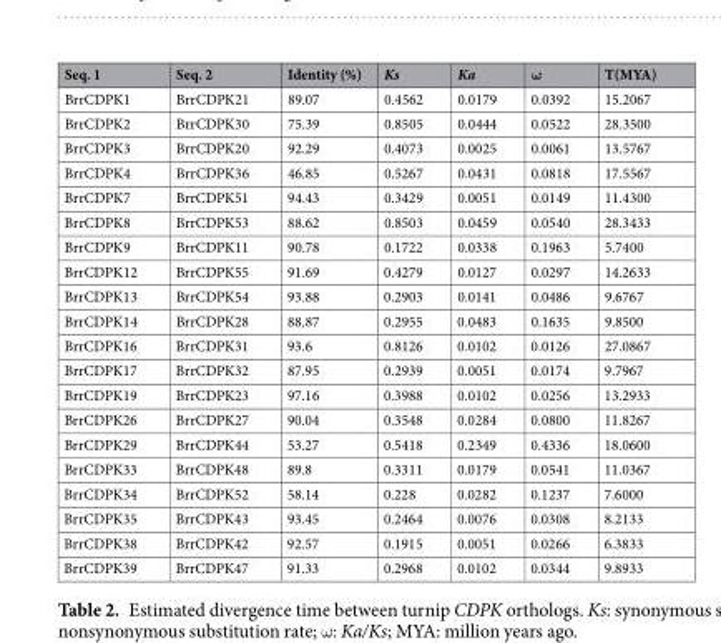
<table><thead><tr><td>Seq. 1</td><td>Seq. 2</td><td>Identity (%)</td><td>Ks</td><td>Ka</td><td>ω</td><td>T(MYA)</td></tr></thead><tbody><tr><td>BrrCDPK1</td><td>BrrCDPK21</td><td>89.07</td><td>0.4562</td><td>0.0179</td><td>0.0392</td><td>15.2067</td></tr><tr><td>BrrCDPK2</td><td>BrrCDPK30</td><td>75.39</td><td>0.8505</td><td>0.0444</td><td>0.0522</td><td>28.3500</td></tr><tr><td>BrrCDPK3</td><td>BrrCDPK20</td><td>92.29</td><td>0.4073</td><td>0.0025</td><td>0.0061</td><td>13.5767</td></tr><tr><td>BrrCDPK4</td><td>BrrCDPK36</td><td>46.85</td><td>0.5267</td><td>0.0431</td><td>0.0818</td><td>17.5567</td></tr><tr><td>BrrCDPK7</td><td>BrrCDPK51</td><td>94.43</td><td>0.3429</td><td>0.0051</td><td>0.0149</td><td>11.4300</td></tr><tr><td>BrrCDPK8</td><td>BrrCDPK53</td><td>88.62</td><td>0.8503</td><td>0.0459</td><td>0.0540</td><td>28.3433</td></tr><tr><td>BrrCDPK9</td><td>BrrCDPK11</td><td>90.78</td><td>0.1722</td><td>0.0338</td><td>0.1963</td><td>5.7400</td></tr><tr><td>BrrCDPK12</td><td>BrrCDPK55</td><td>91.69</td><td>0.4279</td><td>0.0127</td><td>0.0297</td><td>14.2633</td></tr><tr><td>BrrCDPK13</td><td>BrrCDPK54</td><td>93.88</td><td>0.2903</td><td>0.0141</td><td>0.0486</td><td>9.6767</td></tr><tr><td>BrrCDPK14</td><td>BrrCDPK28</td><td>88.87</td><td>0.2955</td><td>0.0483</td><td>0.1635</td><td>9.8500</td></tr><tr><td>BrrCDPK16</td><td>BrrCDPK31</td><td>93.6</td><td>0.8126</td><td>0.0102</td><td>0.0126</td><td>27.0867</td></tr><tr><td>BrrCDPK17</td><td>BrrCDPK32</td><td>87.95</td><td>0.2939</td><td>0.0051</td><td>0.0174</td><td>9.7967</td></tr><tr><td>BrrCDPK19</td><td>BrrCDPK23</td><td>97.16</td><td>0.3988</td><td>0.0102</td><td>0.0256</td><td>13.2933</td></tr><tr><td>BrrCDPK26</td><td>BrrCDPK27</td><td>90.04</td><td>0.3548</td><td>0.0284</td><td>0.0800</td><td>11.8267</td></tr><tr><td>BrrCDPK29</td><td>BrrCDPK44</td><td>53.27</td><td>0.5418</td><td>0.2349</td><td>0.4336</td><td>18.0600</td></tr><tr><td>BrrCDPK33</td><td>BrrCDPK48</td><td>89.8</td><td>0.3311</td><td>0.0179</td><td>0.0541</td><td>11.0367</td></tr><tr><td>BrrCDPK34</td><td>BrrCDPK52</td><td>58.14</td><td>0.228</td><td>0.0282</td><td>0.1237</td><td>7.6000</td></tr><tr><td>BrrCDPK35</td><td>BrrCDPK43</td><td>93.45</td><td>0.2464</td><td>0.0076</td><td>0.0308</td><td>8.2133</td></tr><tr><td>BrrCDPK38</td><td>BrrCDPK42</td><td>92.57</td><td>0.1915</td><td>0.0051</td><td>0.0266</td><td>6.3833</td></tr><tr><td>BrrCDPK39</td><td>BrrCDPK47</td><td>91.33</td><td>0.2968</td><td>0.0102</td><td>0.0344</td><td>9.8933</td></tr></tbody></table>